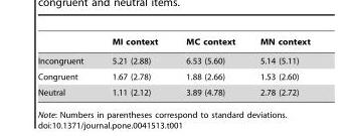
<table><thead><tr><td></td><td>MI context</td><td>MC context</td><td>MN context</td></tr></thead><tbody><tr><td>Incongruent</td><td>5.21 (2.88)</td><td>6.53 (5.60)</td><td>5.14 (5.11)</td></tr><tr><td>Congruent</td><td>1.67 (2.78)</td><td>1.88 (2.66)</td><td>1.53 (2.60)</td></tr><tr><td>Neutral</td><td>1.11 (2.12)</td><td>3.89 (4.78)</td><td>2.78 (2.72)</td></tr></tbody></table>